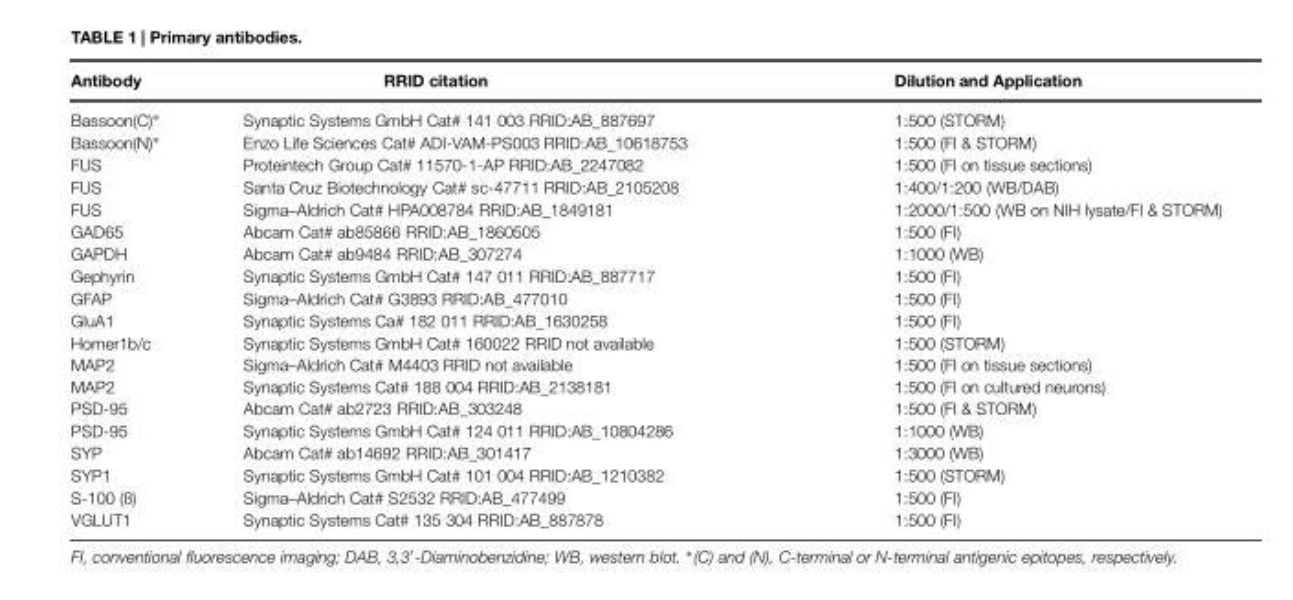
<table><thead><tr><td>Antibody</td><td>RRID citation</td><td>Dilution and Application</td></tr></thead><tbody><tr><td>Bassoon(C)∗ Bassoon(N)∗ FUS FUS FUS GAD65 GAPDH Gephyrin GFAP GluA1 Homer1b/c</td><td>Synaptic Systems GmbH Cat# 141 003 RRID:AB_887697 Enzo Life Sciences Cat# ADI-VAM-PS003 RRID:AB_10618753 Proteintech Group Cat# 11570-1-AP RRID:AB_2247082 Santa Cruz Biotechnology Cat# sc-47711 RRID:AB_2105208 Sigma–Aldrich Cat# HPA008784 RRID:AB_1849181 Abcam Cat# ab85866 RRID:AB_1860505 Abcam Cat# ab9484 RRID:AB_307274 Synaptic Systems GmbH Cat# 147 011 RRID:AB_887717 Sigma–Aldrich Cat# G3893 RRID:AB_477010 Synaptic Systems Ca# 182 011 RRID:AB_1630258 Synaptic Systems GmbH Cat# 160022 RRID not available</td><td>1:500 (STORM) 1:500 (FI &amp; STORM) 1:500 (FI on tissue sections) 1:400/1:200 (WB/DAB) 1:2000/1:500 (WB on NIH lysate/FI &amp; STORM) 1:500 (FI) 1:1000 (WB) 1:500 (FI) 1:500 (FI) 1:500 (FI) 1:500 (STORM)</td></tr><tr><td>MAP2 MAP2</td><td>Sigma–Aldrich Cat# M4403 RRID not available Synaptic Systems Cat# 188 004 RRID:AB_2138181</td><td>1:500 (FI on tissue sections) 1:500 (FI on cultured neurons)</td></tr><tr><td>PSD-95 PSD-95 SYP SYP1 S-100 (ß) VGLUT1</td><td>Abcam Cat# ab2723 RRID:AB_303248 Synaptic Systems GmbH Cat# 124 011 RRID:AB_10804286 Abcam Cat# ab14692 RRID:AB_301417 Synaptic Systems GmbH Cat# 101 004 RRID:AB_1210382 Sigma–Aldrich Cat# S2532 RRID:AB_477499 Synaptic Systems Cat# 135 304 RRID:AB_887878</td><td>1:500 (FI &amp; STORM) 1:1000 (WB) 1:3000 (WB) 1:500 (STORM) 1:500 (FI) 1:500 (FI)</td></tr></tbody></table>